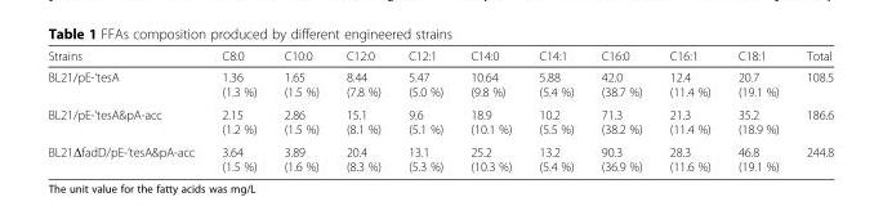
<table><thead><tr><td>Strains</td><td>C8:0</td><td>C10:0</td><td>C12:0</td><td>C12:1</td><td>C14:0</td><td>C14:1</td><td>C16:0</td><td>C16:1</td><td>C18:1</td><td>Total</td></tr></thead><tbody><tr><td>BL21/pE-‘tesA</td><td>1.36 (1.3 %)</td><td>1.65 (1.5 %)</td><td>8.44 (7.8 %)</td><td>5.47 (5.0 %)</td><td>10.64 (9.8 %)</td><td>5.88 (5.4 %)</td><td>42.0 (38.7 %)</td><td>12.4 (11.4 %)</td><td>20.7 (19.1 %)</td><td>108.5</td></tr><tr><td>BL21/pE-‘tesA&amp;pA-acc</td><td>2.15 (1.2 %)</td><td>2.86 (1.5 %)</td><td>15.1 (8.1 %)</td><td>9.6 (5.1 %)</td><td>18.9 (10.1 %)</td><td>10.2 (5.5 %)</td><td>71.3 (38.2 %)</td><td>21.3 (11.4 %)</td><td>35.2 (18.9 %)</td><td>186.6</td></tr><tr><td>BL21ΔfadD/pE-‘tesA&amp;pA-acc</td><td>3.64 (1.5 %)</td><td>3.89 (1.6 %)</td><td>20.4 (8.3 %)</td><td>13.1 (5.3 %)</td><td>25.2 (10.3 %)</td><td>13.2 (5.4 %)</td><td>90.3 (36.9 %)</td><td>28.3 (11.6 %)</td><td>46.8 (19.1 %)</td><td>244.8</td></tr></tbody></table>